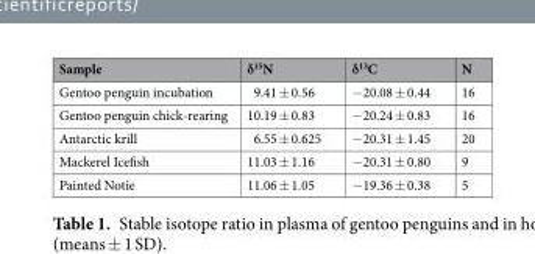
<table><thead><tr><td>Sample</td><td>δ<sup>15</sup>N</td><td>δ<sup>13</sup>C</td><td>N</td></tr></thead><tbody><tr><td>Gentoo penguin incubation</td><td>9.41 ± 0.56</td><td>−20.08 ± 0.44</td><td>16</td></tr><tr><td>Gentoo penguin chick-rearing</td><td>10.19 ± 0.83</td><td>−20.24 ± 0.83</td><td>16</td></tr><tr><td>Antarctic krill</td><td>6.55 ± 0.625</td><td>−20.31 ± 1.45</td><td>20</td></tr><tr><td>Mackerel Icefish</td><td>11.03 ± 1.16</td><td>−20.31 ± 0.80</td><td>9</td></tr><tr><td>Painted Notie</td><td>11.06 ± 1.05</td><td>−19.36 ± 0.38</td><td>5</td></tr></tbody></table>